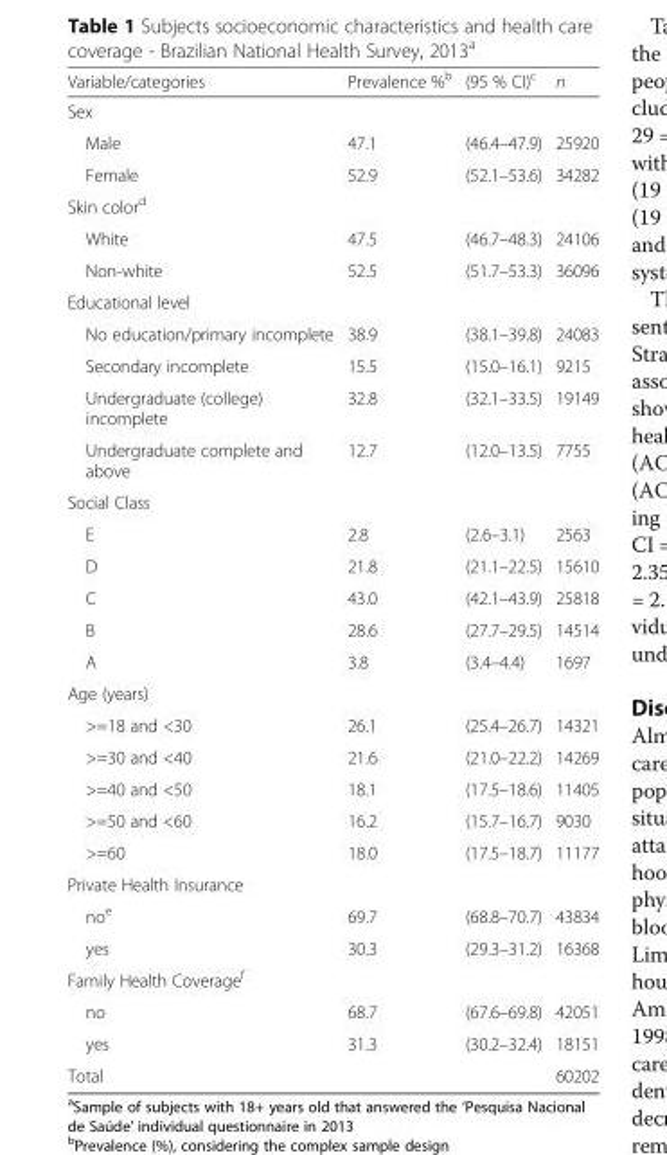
<table><thead><tr><td>Variable/categories</td><td>Prevalence %<sup>b</sup></td><td>(95 % CI)<sup>c</sup></td><td>n</td></tr></thead><tbody><tr><td colspan="4">Sex</td></tr><tr><td>Male</td><td>47.1</td><td>(46.4–47.9)</td><td>25920</td></tr><tr><td>Female</td><td>52.9</td><td>(52.1–53.6)</td><td>34282</td></tr><tr><td colspan="4">Skin color<sup>d</sup></td></tr><tr><td>White</td><td>47.5</td><td>(46.7–48.3)</td><td>24106</td></tr><tr><td>Non-white</td><td>52.5</td><td>(51.7–53.3)</td><td>36096</td></tr><tr><td colspan="4">Educational level</td></tr><tr><td>No education/primary incomplete</td><td>38.9</td><td>(38.1–39.8)</td><td>24083</td></tr><tr><td>Secondary incomplete</td><td>15.5</td><td>(15.0–16.1)</td><td>9215</td></tr><tr><td>Undergraduate (college) incomplete</td><td>32.8</td><td>(32.1–33.5)</td><td>19149</td></tr><tr><td>Undergraduate complete and above</td><td>12.7</td><td>(12.0–13.5)</td><td>7755</td></tr><tr><td colspan="4">Social Class</td></tr><tr><td>E</td><td>2.8</td><td>(2.6–3.1)</td><td>2563</td></tr><tr><td>D</td><td>21.8</td><td>(21.1–22.5)</td><td>15610</td></tr><tr><td>C</td><td>43.0</td><td>(42.1–43.9)</td><td>25818</td></tr><tr><td>B</td><td>28.6</td><td>(27.7–29.5)</td><td>14514</td></tr><tr><td>A</td><td>3.8</td><td>(3.4–4.4)</td><td>1697</td></tr><tr><td colspan="4">Age (years)</td></tr><tr><td>&gt;=18 and &lt;30</td><td>26.1</td><td>(25.4–26.7)</td><td>14321</td></tr><tr><td>&gt;=30 and &lt;40</td><td>21.6</td><td>(21.0–22.2)</td><td>14269</td></tr><tr><td>&gt;=40 and &lt;50</td><td>18.1</td><td>(17.5–18.6)</td><td>11405</td></tr><tr><td>&gt;=50 and &lt;60</td><td>16.2</td><td>(15.7–16.7)</td><td>9030</td></tr><tr><td>&gt;=60</td><td>18.0</td><td>(17.5–18.7)</td><td>11177</td></tr><tr><td colspan="4">Private Health Insurance</td></tr><tr><td>no<sup>e</sup></td><td>69.7</td><td>(68.8–70.7)</td><td>43834</td></tr><tr><td>yes</td><td>30.3</td><td>(29.3–31.2)</td><td>16368</td></tr><tr><td colspan="4">Family Health Coverage<sup>f</sup></td></tr><tr><td>no</td><td>68.7</td><td>(67.6–69.8)</td><td>42051</td></tr><tr><td>yes</td><td>31.3</td><td>(30.2–32.4)</td><td>18151</td></tr><tr><td>Total</td><td></td><td></td><td>60202</td></tr></tbody></table>